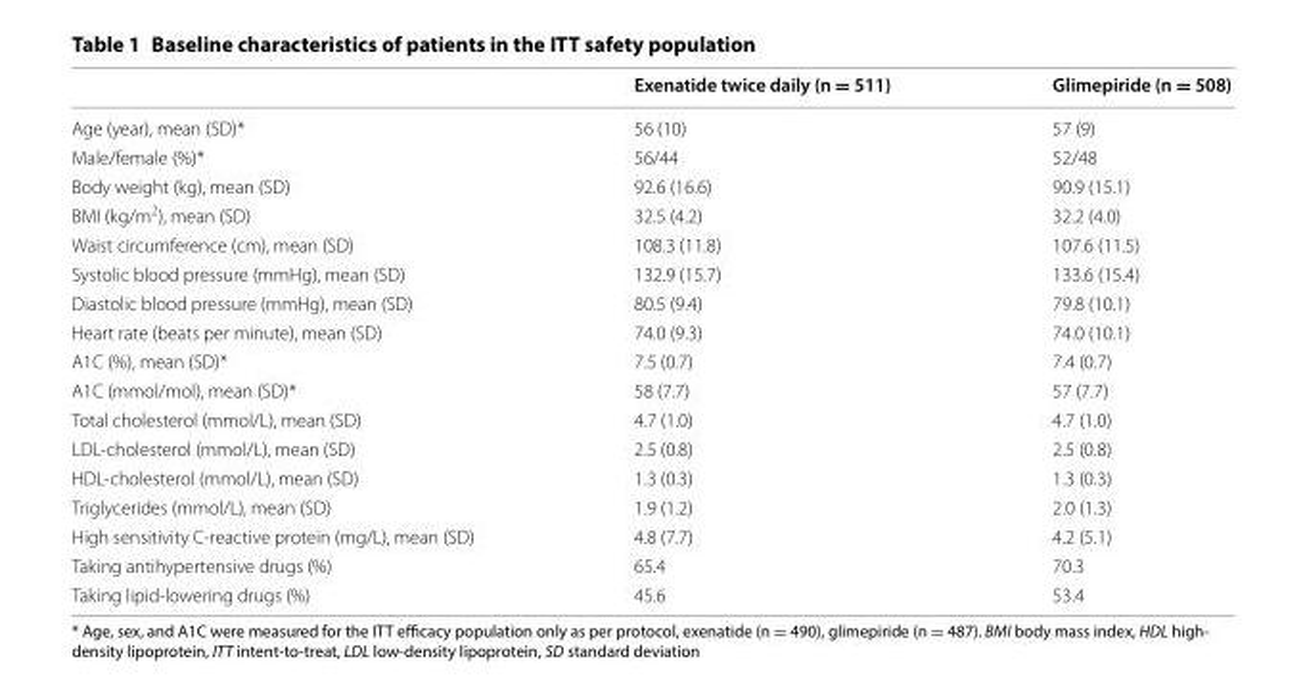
<table><thead><tr><td></td><td>Exenatide twice daily (n = 511)</td><td>Glimepiride (n = 508)</td></tr></thead><tbody><tr><td>Age (year), mean (SD)*</td><td>56 (10)</td><td>57 (9)</td></tr><tr><td>Male/female (%)*</td><td>56/44</td><td>52/48</td></tr><tr><td>Body weight (kg), mean (SD)</td><td>92.6 (16.6)</td><td>90.9 (15.1)</td></tr><tr><td>BMI (kg/m<sup>2</sup>), mean (SD)</td><td>32.5 (4.2)</td><td>32.2 (4.0)</td></tr><tr><td>Waist circumference (cm), mean (SD)</td><td>108.3 (11.8)</td><td>107.6 (11.5)</td></tr><tr><td>Systolic blood pressure (mmHg), mean (SD)</td><td>132.9 (15.7)</td><td>133.6 (15.4)</td></tr><tr><td>Diastolic blood pressure (mmHg), mean (SD)</td><td>80.5 (9.4)</td><td>79.8 (10.1)</td></tr><tr><td>Heart rate (beats per minute), mean (SD)</td><td>74.0 (9.3)</td><td>74.0 (10.1)</td></tr><tr><td>A1C (%), mean (SD)*</td><td>7.5 (0.7)</td><td>7.4 (0.7)</td></tr><tr><td>A1C (mmol/mol), mean (SD)*</td><td>58 (7.7)</td><td>57 (7.7)</td></tr><tr><td>Total cholesterol (mmol/L), mean (SD)</td><td>4.7 (1.0)</td><td>4.7 (1.0)</td></tr><tr><td>LDL‑cholesterol (mmol/L), mean (SD)</td><td>2.5 (0.8)</td><td>2.5 (0.8)</td></tr><tr><td>HDL‑cholesterol (mmol/L), mean (SD)</td><td>1.3 (0.3)</td><td>1.3 (0.3)</td></tr><tr><td>Triglycerides (mmol/L), mean (SD)</td><td>1.9 (1.2)</td><td>2.0 (1.3)</td></tr><tr><td>High sensitivity C‑reactive protein (mg/L), mean (SD)</td><td>4.8 (7.7)</td><td>4.2 (5.1)</td></tr><tr><td>Taking antihypertensive drugs (%)</td><td>65.4</td><td>70.3</td></tr><tr><td>Taking lipid‑lowering drugs (%)</td><td>45.6</td><td>53.4</td></tr></tbody></table>